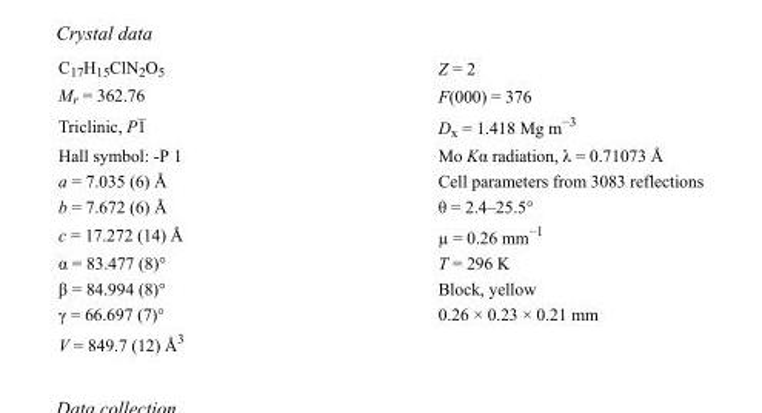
<table><tbody><tr><td>C<sub>17</sub>H<sub>15</sub>ClN<sub>2</sub>O<sub>5</sub></td><td>Z = 2</td></tr><tr><td>M<sub>r</sub> = 362.76</td><td>F(000) = 376</td></tr><tr><td>Triclinic, P1</td><td>D<sub>x</sub> = 1.418 Mg m<sup>−3</sup></td></tr><tr><td>Hall symbol: -P 1</td><td>Mo Kα radiation, λ = 0.71073 Å</td></tr><tr><td>a = 7.035 (6) Å</td><td>Cell parameters from 3083 reflections</td></tr><tr><td>b = 7.672 (6) Å</td><td>θ = 2.4–25.5°</td></tr><tr><td>c = 17.272 (14) Å</td><td>µ = 0.26 mm<sup>−1</sup></td></tr><tr><td>α = 83.477 (8)°</td><td>T = 296 K</td></tr><tr><td>β = 84.994 (8)°</td><td>Block, yellow</td></tr><tr><td>γ = 66.697 (7)°</td><td>0.26 × 0.23 × 0.21 mm</td></tr><tr><td>V = 849.7 (12) Å<sup>3</sup></td><td></td></tr></tbody></table>